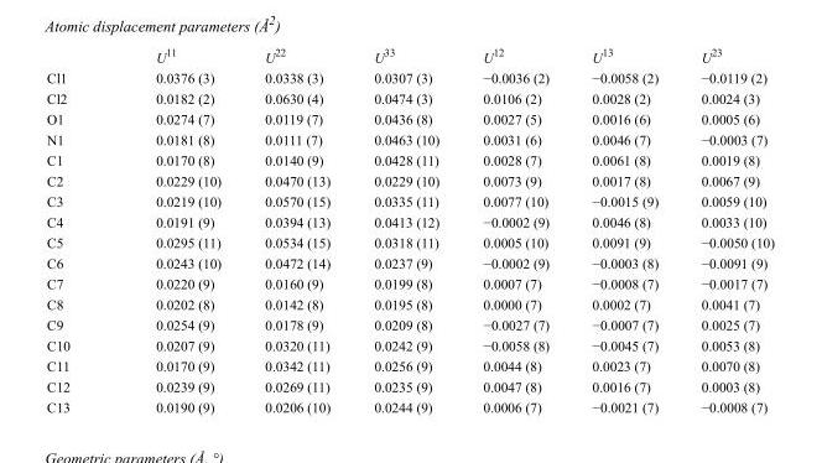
<table><thead><tr><td></td><td>U<sup>11</sup></td><td>U<sup>22</sup></td><td>U<sup>33</sup></td><td>U<sup>12</sup></td><td>U<sup>13</sup></td><td>U<sup>23</sup></td></tr></thead><tbody><tr><td>Cl1</td><td>0.0376 (3)</td><td>0.0338 (3)</td><td>0.0307 (3)</td><td>−0.0036 (2)</td><td>−0.0058 (2)</td><td>−0.0119 (2)</td></tr><tr><td>Cl2</td><td>0.0182 (2)</td><td>0.0630 (4)</td><td>0.0474 (3)</td><td>0.0106 (2)</td><td>0.0028 (2)</td><td>0.0024 (3)</td></tr><tr><td>O1</td><td>0.0274 (7)</td><td>0.0119 (7)</td><td>0.0436 (8)</td><td>0.0027 (5)</td><td>0.0016 (6)</td><td>0.0005 (6)</td></tr><tr><td>N1</td><td>0.0181 (8)</td><td>0.0111 (7)</td><td>0.0463 (10)</td><td>0.0031 (6)</td><td>0.0046 (7)</td><td>−0.0003 (7)</td></tr><tr><td>C1</td><td>0.0170 (8)</td><td>0.0140 (9)</td><td>0.0428 (11)</td><td>0.0028 (7)</td><td>0.0061 (8)</td><td>0.0019 (8)</td></tr><tr><td>C2</td><td>0.0229 (10)</td><td>0.0470 (13)</td><td>0.0229 (10)</td><td>0.0073 (9)</td><td>0.0017 (8)</td><td>0.0067 (9)</td></tr><tr><td>C3</td><td>0.0219 (10)</td><td>0.0570 (15)</td><td>0.0335 (11)</td><td>0.0077 (10)</td><td>−0.0015 (9)</td><td>0.0059 (10)</td></tr><tr><td>C4</td><td>0.0191 (9)</td><td>0.0394 (13)</td><td>0.0413 (12)</td><td>−0.0002 (9)</td><td>0.0046 (8)</td><td>0.0033 (10)</td></tr><tr><td>C5</td><td>0.0295 (11)</td><td>0.0534 (15)</td><td>0.0318 (11)</td><td>0.0005 (10)</td><td>0.0091 (9)</td><td>−0.0050 (10)</td></tr><tr><td>C6</td><td>0.0243 (10)</td><td>0.0472 (14)</td><td>0.0237 (9)</td><td>−0.0002 (9)</td><td>−0.0003 (8)</td><td>−0.0091 (9)</td></tr><tr><td>C7</td><td>0.0220 (9)</td><td>0.0160 (9)</td><td>0.0199 (8)</td><td>0.0007 (7)</td><td>−0.0008 (7)</td><td>−0.0017 (7)</td></tr><tr><td>C8</td><td>0.0202 (8)</td><td>0.0142 (8)</td><td>0.0195 (8)</td><td>0.0000 (7)</td><td>0.0002 (7)</td><td>0.0041 (7)</td></tr><tr><td>C9</td><td>0.0254 (9)</td><td>0.0178 (9)</td><td>0.0209 (8)</td><td>−0.0027 (7)</td><td>−0.0007 (7)</td><td>0.0025 (7)</td></tr><tr><td>C10</td><td>0.0207 (9)</td><td>0.0320 (11)</td><td>0.0242 (9)</td><td>−0.0058 (8)</td><td>−0.0045 (7)</td><td>0.0053 (8)</td></tr><tr><td>C11</td><td>0.0170 (9)</td><td>0.0342 (11)</td><td>0.0256 (9)</td><td>0.0044 (8)</td><td>0.0023 (7)</td><td>0.0070 (8)</td></tr><tr><td>C12</td><td>0.0239 (9)</td><td>0.0269 (11)</td><td>0.0235 (9)</td><td>0.0047 (8)</td><td>0.0016 (7)</td><td>0.0003 (8)</td></tr><tr><td>C13</td><td>0.0190 (9)</td><td>0.0206 (10)</td><td>0.0244 (9)</td><td>0.0006 (7)</td><td>−0.0021 (7)</td><td>−0.0008 (7)</td></tr></tbody></table>